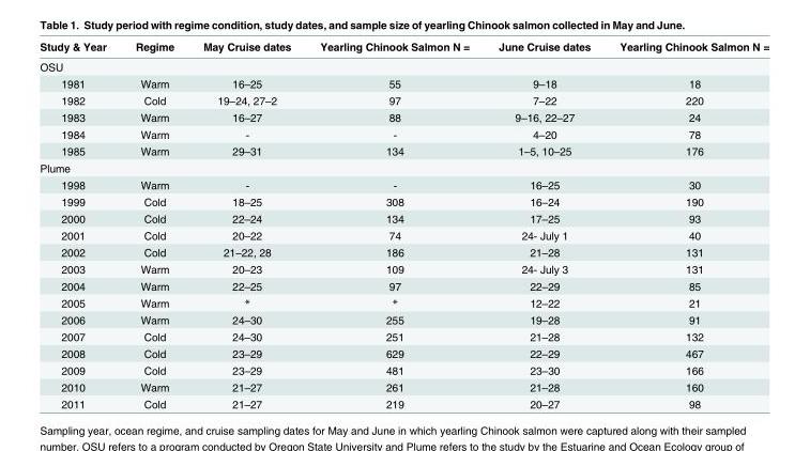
<table><thead><tr><td>Study &amp; Year</td><td>Regime</td><td>May Cruise dates</td><td>Yearling Chinook Salmon N =</td><td>June Cruise dates</td><td>Yearling Chinook Salmon N =</td></tr></thead><tbody><tr><td colspan="6">OSU</td></tr><tr><td>1981</td><td>Warm</td><td>16–25</td><td>55</td><td>9–18</td><td>18</td></tr><tr><td>1982</td><td>Cold</td><td>19–24, 27–2</td><td>97</td><td>7–22</td><td>220</td></tr><tr><td>1983</td><td>Warm</td><td>16–27</td><td>88</td><td>9–16, 22–27</td><td>24</td></tr><tr><td>1984</td><td>Warm</td><td>-</td><td>-</td><td>4–20</td><td>78</td></tr><tr><td>1985</td><td>Warm</td><td>29–31</td><td>134</td><td>1–5, 10–25</td><td>176</td></tr><tr><td colspan="6">Plume</td></tr><tr><td>1998</td><td>Warm</td><td>-</td><td>-</td><td>16–25</td><td>30</td></tr><tr><td>1999</td><td>Cold</td><td>18–25</td><td>308</td><td>16–24</td><td>190</td></tr><tr><td>2000</td><td>Cold</td><td>22–24</td><td>134</td><td>17–25</td><td>93</td></tr><tr><td>2001</td><td>Cold</td><td>20–22</td><td>74</td><td>24- July 1</td><td>40</td></tr><tr><td>2002</td><td>Cold</td><td>21–22, 28</td><td>186</td><td>21–28</td><td>131</td></tr><tr><td>2003</td><td>Warm</td><td>20–23</td><td>109</td><td>24- July 3</td><td>131</td></tr><tr><td>2004</td><td>Warm</td><td>22–25</td><td>97</td><td>22–29</td><td>85</td></tr><tr><td>2005</td><td>Warm</td><td>*</td><td>*</td><td>12–22</td><td>21</td></tr><tr><td>2006</td><td>Warm</td><td>24–30</td><td>255</td><td>19–28</td><td>91</td></tr><tr><td>2007</td><td>Cold</td><td>24–30</td><td>251</td><td>21–28</td><td>132</td></tr><tr><td>2008</td><td>Cold</td><td>23–29</td><td>629</td><td>22–29</td><td>467</td></tr><tr><td>2009</td><td>Cold</td><td>23–29</td><td>481</td><td>23–30</td><td>166</td></tr><tr><td>2010</td><td>Warm</td><td>21–27</td><td>261</td><td>21–28</td><td>160</td></tr><tr><td>2011</td><td>Cold</td><td>21–27</td><td>219</td><td>20–27</td><td>98</td></tr></tbody></table>